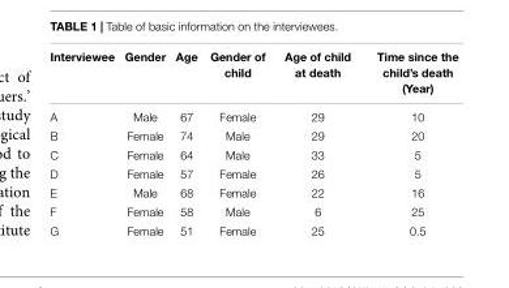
<table><thead><tr><td>Interviewee</td><td>Gender</td><td>Age</td><td>Gender of child</td><td>Age of child at death</td><td>Time since the child’s death (Year)</td></tr></thead><tbody><tr><td>A</td><td>Male</td><td>67</td><td>Female</td><td>29</td><td>10</td></tr><tr><td>B</td><td>Female</td><td>74</td><td>Male</td><td>29</td><td>20</td></tr><tr><td>C</td><td>Female</td><td>64</td><td>Male</td><td>33</td><td>5</td></tr><tr><td>D</td><td>Female</td><td>57</td><td>Female</td><td>26</td><td>5</td></tr><tr><td>E</td><td>Male</td><td>68</td><td>Female</td><td>22</td><td>16</td></tr><tr><td>F</td><td>Female</td><td>58</td><td>Male</td><td>6</td><td>25</td></tr><tr><td>G</td><td>Female</td><td>51</td><td>Female</td><td>25</td><td>0.5</td></tr></tbody></table>